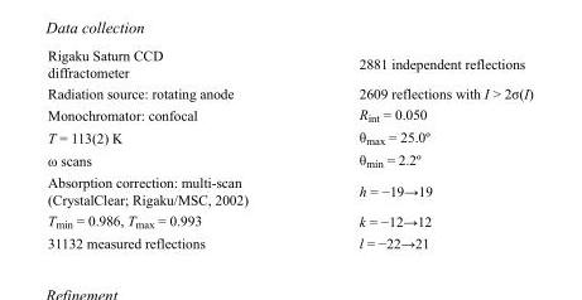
<table><tbody><tr><td>Rigaku Saturn CCD diffractometer</td><td>2881 independent reflections</td></tr><tr><td>Radiation source: rotating anode</td><td>2609 reflections with I &gt; 2σ(I)</td></tr><tr><td>Monochromator: confocal</td><td>R<sub>int</sub> = 0.050</td></tr><tr><td>T = 113(2) K</td><td>θ<sub>max</sub> = 25.0º</td></tr><tr><td>ω scans</td><td>θ<sub>min</sub> = 2.2º</td></tr><tr><td>Absorption correction: multi-scan (CrystalClear; Rigaku/MSC, 2002)</td><td>h = −19→19</td></tr><tr><td>T<sub>min</sub> = 0.986, T<sub>max</sub> = 0.993</td><td>k = −12→12</td></tr><tr><td>31132 measured reflections</td><td>l = −22→21</td></tr></tbody></table>